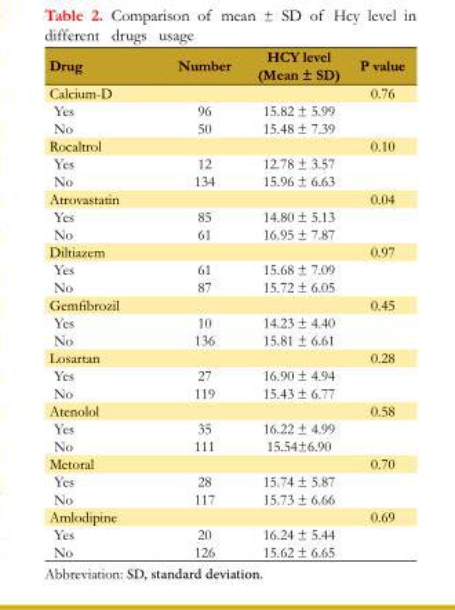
<table><tbody><tr><td>Drug</td><td>Number</td><td>HCY level (Mean ± SD)</td><td>P value</td></tr><tr><td>Calcium-D</td><td></td><td></td><td>0.76</td></tr><tr><td>Yes</td><td>96</td><td>15.82 ± 5.99</td><td></td></tr><tr><td>No</td><td>50</td><td>15.48 ± 7.39</td><td></td></tr><tr><td>Rocaltrol</td><td></td><td></td><td>0.10</td></tr><tr><td>Yes</td><td>12</td><td>12.78 ± 3.57</td><td></td></tr><tr><td>No</td><td>134</td><td>15.96 ± 6.63</td><td></td></tr><tr><td>Atrovastatin</td><td></td><td></td><td>0.04</td></tr><tr><td>Yes</td><td>85</td><td>14.80 ± 5.13</td><td></td></tr><tr><td>No</td><td>61</td><td>16.95 ± 7.87</td><td></td></tr><tr><td>Diltiazem</td><td></td><td></td><td>0.97</td></tr><tr><td>Yes</td><td>61</td><td>15.68 ± 7.09</td><td></td></tr><tr><td>No</td><td>87</td><td>15.72 ± 6.05</td><td></td></tr><tr><td>Gemfibrozil</td><td></td><td></td><td>0.45</td></tr><tr><td>Yes</td><td>10</td><td>14.23 ± 4.40</td><td></td></tr><tr><td>No</td><td>136</td><td>15.81 ± 6.61</td><td></td></tr><tr><td>Losartan</td><td></td><td></td><td>0.28</td></tr><tr><td>Yes</td><td>27</td><td>16.90 ± 4.94</td><td></td></tr><tr><td>No</td><td>119</td><td>15.43 ± 6.77</td><td></td></tr><tr><td>Atenolol</td><td></td><td></td><td>0.58</td></tr><tr><td>Yes</td><td>35</td><td>16.22 ± 4.99</td><td></td></tr><tr><td>No</td><td>111</td><td>15.54±6.90</td><td></td></tr><tr><td>Metoral</td><td></td><td></td><td>0.70</td></tr><tr><td>Yes</td><td>28</td><td>15.74 ± 5.87</td><td></td></tr><tr><td>No</td><td>117</td><td>15.73 ± 6.66</td><td></td></tr><tr><td>Amlodipine</td><td></td><td></td><td>0.69</td></tr><tr><td>Yes</td><td>20</td><td>16.24 ± 5.44</td><td></td></tr><tr><td>No</td><td>126</td><td>15.62 ± 6.65</td><td></td></tr></tbody></table>